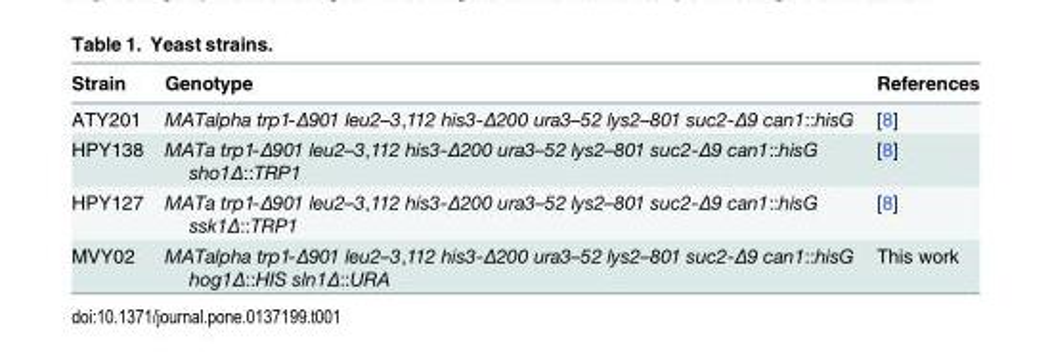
<table><thead><tr><td>Strain</td><td>Genotype</td><td>References</td></tr></thead><tbody><tr><td>ATY201</td><td>MATalpha trp1-Δ901 leu2–3,112 his3-Δ200 ura3–52 lys2–801 suc2-Δ9 can1::hisG</td><td>[8]</td></tr><tr><td>HPY138</td><td>MATa trp1-Δ901 leu2–3,112 his3-Δ200 ura3–52 lys2–801 suc2-Δ9 can1::hisG sho1Δ::TRP1</td><td>[8]</td></tr><tr><td>HPY127</td><td>MATa trp1-Δ901 leu2–3,112 his3-Δ200 ura3–52 lys2–801 suc2-Δ9 can1::hisG ssk1Δ::TRP1</td><td>[8]</td></tr><tr><td>MVY02</td><td>MATalpha trp1-Δ901 leu2–3,112 his3-Δ200 ura3–52 lys2–801 suc2-Δ9 can1::hisG hog1Δ::HIS sln1Δ::URA</td><td>This work</td></tr></tbody></table>